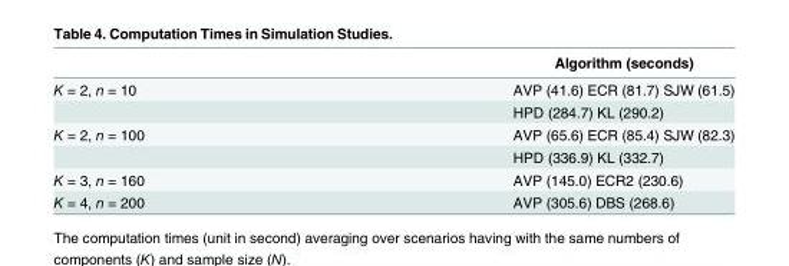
<table><thead><tr><td></td><td>Algorithm (seconds)</td></tr></thead><tbody><tr><td rowspan="2">K = 2, n = 10</td><td>AVP (41.6) ECR (81.7) SJW (61.5)</td></tr><tr><td>HPD (284.7) KL (290.2)</td></tr><tr><td rowspan="2">K = 2, n = 100</td><td>AVP (65.6) ECR (85.4) SJW (82.3)</td></tr><tr><td>HPD (336.9) KL (332.7)</td></tr><tr><td>K = 3, n = 160</td><td>AVP (145.0) ECR2 (230.6)</td></tr><tr><td>K = 4, n = 200</td><td>AVP (305.6) DBS (268.6)</td></tr></tbody></table>